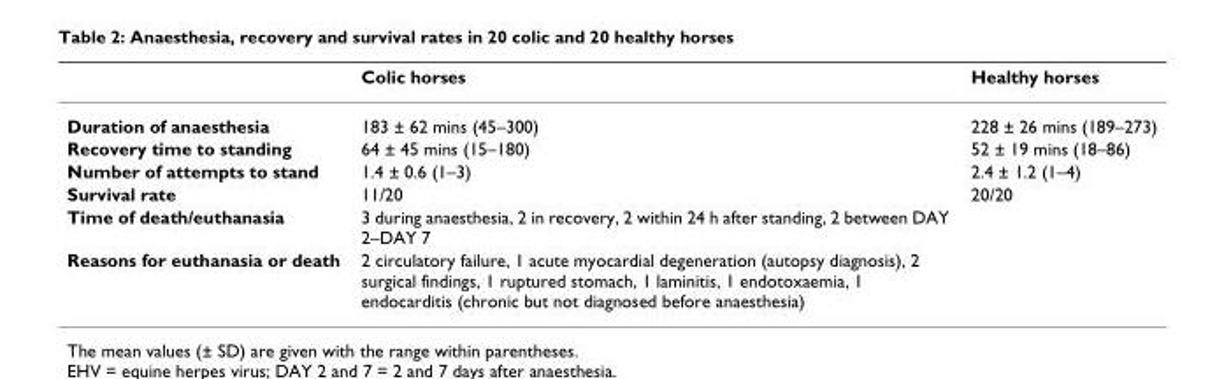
<table><thead><tr><td></td><td>Colic horses</td><td>Healthy horses</td></tr></thead><tbody><tr><td>Duration of anaesthesia</td><td>183 ± 62 mins (45–300)</td><td>228 ± 26 mins (189–273)</td></tr><tr><td>Recovery time to standing</td><td>64 ± 45 mins (15–180)</td><td>52 ± 19 mins (18–86)</td></tr><tr><td>Number of attempts to stand</td><td>1.4 ± 0.6 (1–3)</td><td>2.4 ± 1.2 (1–4)</td></tr><tr><td>Survival rate</td><td>11/20</td><td>20/20</td></tr><tr><td>Time of death/euthanasia</td><td>3 during anaesthesia, 2 in recovery, 2 within 24 h after standing, 2 between DAY 2–DAY 7</td><td></td></tr><tr><td>Reasons for euthanasia or death</td><td>2 circulatory failure, 1 acute myocardial degeneration (autopsy diagnosis), 2 surgical findings, 1 ruptured stomach, 1 laminitis, 1 endotoxaemia, 1 endocarditis (chronic but not diagnosed before anaesthesia)</td><td></td></tr></tbody></table>